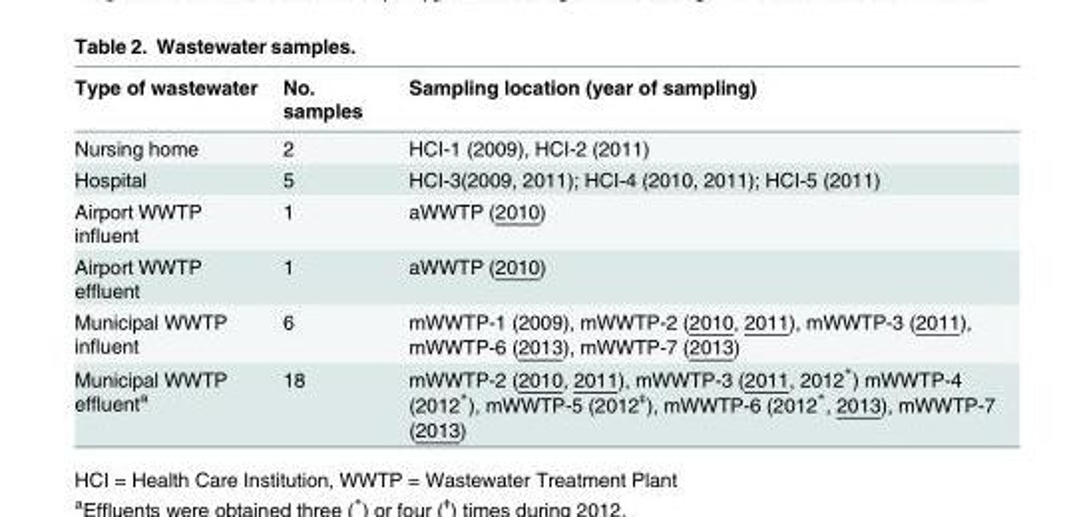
<table><thead><tr><td>Type of wastewater</td><td>No. samples</td><td>Sampling location (year of sampling)</td></tr></thead><tbody><tr><td>Nursing home</td><td>2</td><td>HCI-1 (2009), HCI-2 (2011)</td></tr><tr><td>Hospital</td><td>5</td><td>HCI-3(2009, 2011); HCI-4 (2010, 2011); HCI-5 (2011)</td></tr><tr><td>Airport WWTP influent</td><td>1</td><td>aWWTP (2010)</td></tr><tr><td>Airport WWTP effluent</td><td>1</td><td>aWWTP (2010)</td></tr><tr><td>Municipal WWTP influent</td><td>6</td><td>mWWTP-1 (2009), mWWTP-2 (2010, 2011), mWWTP-3 (2011), mWWTP-6 (2013), mWWTP-7 (2013)</td></tr><tr><td>Municipal WWTP effluent<sup>a</sup></td><td>18</td><td>mWWTP-2 (2010, 2011), mWWTP-3 (2011, 2012*) mWWTP-4 (2012*), mWWTP-5 (2012<sup>ǂ</sup>), mWWTP-6 (2012*, 2013), mWWTP-7 (2013)</td></tr></tbody></table>